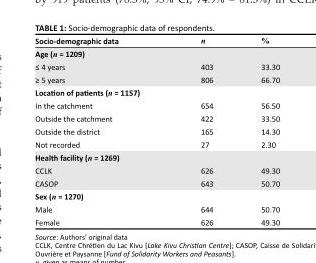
<table><thead><tr><td>Socio-demographic data</td><td>n</td><td>%</td></tr></thead><tbody><tr><td colspan="3">Age (n = 1209)</td></tr><tr><td>≤ 4 years</td><td>403</td><td>33.30</td></tr><tr><td>≥ 5 years</td><td>806</td><td>66.70</td></tr><tr><td colspan="3">Location of patients (n = 1157)</td></tr><tr><td>In the catchment</td><td>654</td><td>56.50</td></tr><tr><td>Outside the catchment</td><td>422</td><td>33.50</td></tr><tr><td>Outside the district</td><td>165</td><td>14.30</td></tr><tr><td>Not recorded</td><td>27</td><td>2.30</td></tr><tr><td colspan="3">Health facility (n = 1269)</td></tr><tr><td>CCLK</td><td>626</td><td>49.30</td></tr><tr><td>CASOP</td><td>643</td><td>50.70</td></tr><tr><td colspan="3">Sex (n = 1270)</td></tr><tr><td>Male</td><td>644</td><td>50.70</td></tr><tr><td>Female</td><td>626</td><td>49.30</td></tr></tbody></table>